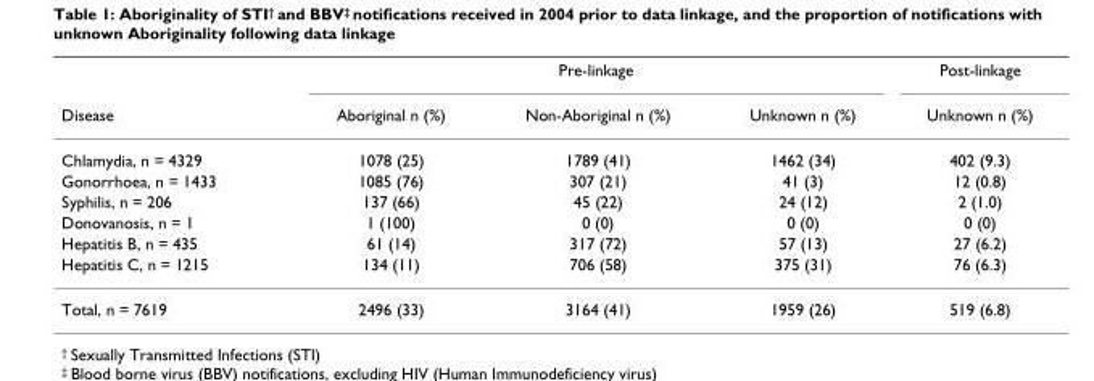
<table><thead><tr><td rowspan="2">Disease</td><td colspan="3">Pre-linkage</td><td rowspan="2">Post-linkage Unknown n (%)</td></tr><tr><td>Aboriginal n (%)</td><td>Non-Aboriginal n (%)</td><td>Unknown n (%)</td></tr></thead><tbody><tr><td>Chlamydia, n = 4329</td><td>1078 (25)</td><td>1789 (41)</td><td>1462 (34)</td><td>402 (9.3)</td></tr><tr><td>Gonorrhoea, n = 1433</td><td>1085 (76)</td><td>307 (21)</td><td>41 (3)</td><td>12 (0.8)</td></tr><tr><td>Syphilis, n = 206</td><td>137 (66)</td><td>45 (22)</td><td>24 (12)</td><td>2 (1.0)</td></tr><tr><td>Donovanosis, n = 1</td><td>1 (100)</td><td>0 (0)</td><td>0 (0)</td><td>0 (0)</td></tr><tr><td>Hepatitis B, n = 435</td><td>61 (14)</td><td>317 (72)</td><td>57 (13)</td><td>27 (6.2)</td></tr><tr><td>Hepatitis C, n = 1215</td><td>134 (11)</td><td>706 (58)</td><td>375 (31)</td><td>76 (6.3)</td></tr><tr><td>Total, n = 7619</td><td>2496 (33)</td><td>3164 (41)</td><td>1959 (26)</td><td>519 (6.8)</td></tr></tbody></table>